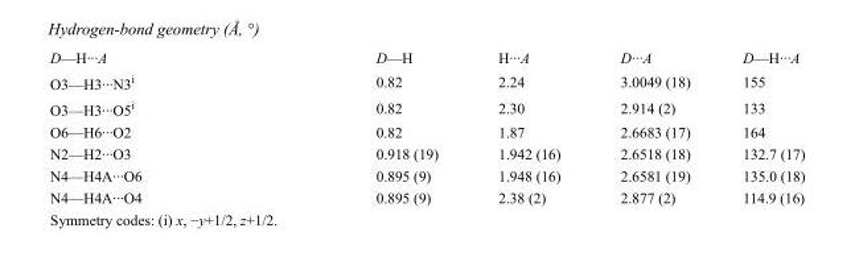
<table><tbody><tr><td>D—H···A</td><td>D—H</td><td>H···A</td><td>D···A</td><td>D—H···A</td></tr><tr><td>O3—H3···N3<sup>i</sup></td><td>0.82</td><td>2.24</td><td>3.0049 (18)</td><td>155</td></tr><tr><td>O3—H3···O5<sup>i</sup></td><td>0.82</td><td>2.30</td><td>2.914 (2)</td><td>133</td></tr><tr><td>O6—H6···O2</td><td>0.82</td><td>1.87</td><td>2.6683 (17)</td><td>164</td></tr><tr><td>N2—H2···O3</td><td>0.918 (19)</td><td>1.942 (16)</td><td>2.6518 (18)</td><td>132.7 (17)</td></tr><tr><td>N4—H4A···O6</td><td>0.895 (9)</td><td>1.948 (16)</td><td>2.6581 (19)</td><td>135.0 (18)</td></tr><tr><td>N4—H4A···O4</td><td>0.895 (9)</td><td>2.38 (2)</td><td>2.877 (2)</td><td>114.9 (16)</td></tr></tbody></table>